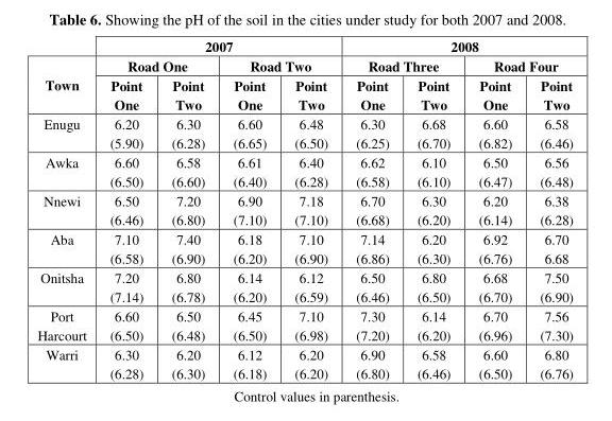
<table><thead><tr><td rowspan="3">Town</td><td colspan="4">2007</td><td colspan="4">2008</td></tr><tr><td colspan="2">Road One</td><td colspan="2">Road Two</td><td colspan="2">Road Three</td><td colspan="2">Road Four</td></tr><tr><td>Point One</td><td>Point Two</td><td>Point One</td><td>Point Two</td><td>Point One</td><td>Point Two</td><td>Point One</td><td>Point Two</td></tr></thead><tbody><tr><td>Enugu</td><td>6.20 (5.90)</td><td>6.30 (6.28)</td><td>6.60 (6.65)</td><td>6.48 (6.50)</td><td>6.30 (6.25)</td><td>6.68 (6.70)</td><td>6.60 (6.82)</td><td>6.58 (6.46)</td></tr><tr><td>Awka</td><td>6.60 (6.50)</td><td>6.58 (6.60)</td><td>6.61 (6.40)</td><td>6.40 (6.28)</td><td>6.62 (6.58)</td><td>6.10 (6.10)</td><td>6.50 (6.47)</td><td>6.56 (6.48)</td></tr><tr><td>Nnewi</td><td>6.50 (6.46)</td><td>7.20 (6.80)</td><td>6.90 (7.10)</td><td>7.18 (7.10)</td><td>6.70 (6.68)</td><td>6.30 (6.20)</td><td>6.20 (6.14)</td><td>6.38 (6.28)</td></tr><tr><td>Aba</td><td>7.10 (6.58)</td><td>7.40 (6.90)</td><td>6.18 (6.20)</td><td>7.10 (6.90)</td><td>7.14 (6.86)</td><td>6.20 (6.30)</td><td>6.92 (6.76)</td><td>6.70 6.68</td></tr><tr><td>Onitsha</td><td>7.20 (7.14)</td><td>6.80 (6.78)</td><td>6.14 (6.20)</td><td>6.12 (6.59)</td><td>6.50 (6.46)</td><td>6.80 (6.50)</td><td>6.68 (6.70)</td><td>7.50 (6.90)</td></tr><tr><td>Port Harcourt</td><td>6.60 (6.50)</td><td>6.50 (6.48)</td><td>6.45 (6.50)</td><td>7.10 (6.98)</td><td>7.30 (7.20)</td><td>6.14 (6.20)</td><td>6.70 (6.96)</td><td>7.56 (7.30)</td></tr><tr><td>Warri</td><td>6.30 (6.28)</td><td>6.20 (6.30)</td><td>6.12 (6.18)</td><td>6.20 (6.20)</td><td>6.90 (6.80)</td><td>6.58 (6.46)</td><td>6.60 (6.50)</td><td>6.80 (6.76)</td></tr></tbody></table>